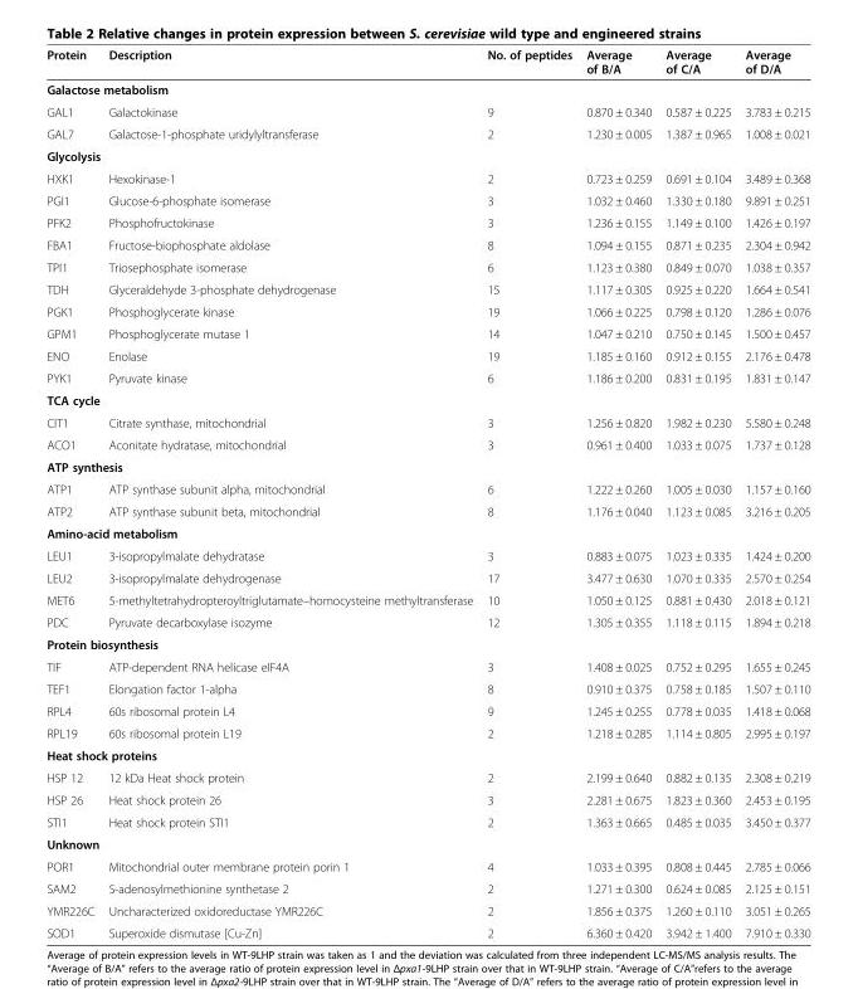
<table><thead><tr><td>Protein</td><td>Description</td><td>No. of peptides</td><td>Average of B/A</td><td>Average of C/A</td><td>Average of D/A</td></tr></thead><tbody><tr><td colspan="6">Galactose metabolism</td></tr><tr><td>GAL1</td><td>Galactokinase</td><td>9</td><td>0.870 ± 0.340</td><td>0.587 ± 0.225</td><td>3.783 ± 0.215</td></tr><tr><td>GAL7</td><td>Galactose-1-phosphate uridylyltransferase</td><td>2</td><td>1.230 ± 0.005</td><td>1.387 ± 0.965</td><td>1.008 ± 0.021</td></tr><tr><td colspan="6">Glycolysis</td></tr><tr><td>HXK1</td><td>Hexokinase-1</td><td>2</td><td>0.723 ± 0.259</td><td>0.691 ± 0.104</td><td>3.489 ± 0.368</td></tr><tr><td>PGI1</td><td>Glucose-6-phosphate isomerase</td><td>3</td><td>1.032 ± 0.460</td><td>1.330 ± 0.180</td><td>9.891 ± 0.251</td></tr><tr><td>PFK2</td><td>Phosphofructokinase</td><td>3</td><td>1.236 ± 0.155</td><td>1.149 ± 0.100</td><td>1.426 ± 0.197</td></tr><tr><td>FBA1</td><td>Fructose-biophosphate aldolase</td><td>8</td><td>1.094 ± 0.155</td><td>0.871 ± 0.235</td><td>2.304 ± 0.942</td></tr><tr><td>TPI1</td><td>Triosephosphate isomerase</td><td>6</td><td>1.123 ± 0.380</td><td>0.849 ± 0.070</td><td>1.038 ± 0.357</td></tr><tr><td>TDH</td><td>Glyceraldehyde 3-phosphate dehydrogenase</td><td>15</td><td>1.117 ± 0.305</td><td>0.925 ± 0.220</td><td>1.664 ± 0.541</td></tr><tr><td>PGK1</td><td>Phosphoglycerate kinase</td><td>19</td><td>1.066 ± 0.225</td><td>0.798 ± 0.120</td><td>1.286 ± 0.076</td></tr><tr><td>GPM1</td><td>Phosphoglycerate mutase 1</td><td>14</td><td>1.047 ± 0.210</td><td>0.750 ± 0.145</td><td>1.500 ± 0.457</td></tr><tr><td>ENO</td><td>Enolase</td><td>19</td><td>1.185 ± 0.160</td><td>0.912 ± 0.155</td><td>2.176 ± 0.478</td></tr><tr><td>PYK1</td><td>Pyruvate kinase</td><td>6</td><td>1.186 ± 0.200</td><td>0.831 ± 0.195</td><td>1.831 ± 0.147</td></tr><tr><td colspan="6">TCA cycle</td></tr><tr><td>CIT1</td><td>Citrate synthase, mitochondrial</td><td>3</td><td>1.256 ± 0.820</td><td>1.982 ± 0.230</td><td>5.580 ± 0.248</td></tr><tr><td>ACO1</td><td>Aconitate hydratase, mitochondrial</td><td>3</td><td>0.961 ± 0.400</td><td>1.033 ± 0.075</td><td>1.737 ± 0.128</td></tr><tr><td colspan="6">ATP synthesis</td></tr><tr><td>ATP1</td><td>ATP synthase subunit alpha, mitochondrial</td><td>6</td><td>1.222 ± 0.260</td><td>1.005 ± 0.030</td><td>1.157 ± 0.160</td></tr><tr><td>ATP2</td><td>ATP synthase subunit beta, mitochondrial</td><td>8</td><td>1.176 ± 0.040</td><td>1.123 ± 0.085</td><td>3.216 ± 0.205</td></tr><tr><td colspan="6">Amino-acid metabolism</td></tr><tr><td>LEU1</td><td>3-isopropylmalate dehydratase</td><td>3</td><td>0.883 ± 0.075</td><td>1.023 ± 0.335</td><td>1.424 ± 0.200</td></tr><tr><td>LEU2</td><td>3-isopropylmalate dehydrogenase</td><td>17</td><td>3.477 ± 0.630</td><td>1.070 ± 0.335</td><td>2.570 ± 0.254</td></tr><tr><td>MET6</td><td>5-methyltetrahydropteroyltriglutamate–homocysteine methyltransferase</td><td>10</td><td>1.050 ± 0.125</td><td>0.881 ± 0.430</td><td>2.018 ± 0.121</td></tr><tr><td>PDC</td><td>Pyruvate decarboxylase isozyme</td><td>12</td><td>1.305 ± 0.355</td><td>1.118 ± 0.115</td><td>1.894 ± 0.218</td></tr><tr><td colspan="6">Protein biosynthesis</td></tr><tr><td>TIF</td><td>ATP-dependent RNA helicase eIF4A</td><td>3</td><td>1.408 ± 0.025</td><td>0.752 ± 0.295</td><td>1.655 ± 0.245</td></tr><tr><td>TEF1</td><td>Elongation factor 1-alpha</td><td>8</td><td>0.910 ± 0.375</td><td>0.758 ± 0.185</td><td>1.507 ± 0.110</td></tr><tr><td>RPL4</td><td>60s ribosomal protein L4</td><td>9</td><td>1.245 ± 0.255</td><td>0.778 ± 0.035</td><td>1.418 ± 0.068</td></tr><tr><td>RPL19</td><td>60s ribosomal protein L19</td><td>2</td><td>1.218 ± 0.285</td><td>1.114 ± 0.805</td><td>2.995 ± 0.197</td></tr><tr><td colspan="6">Heat shock proteins</td></tr><tr><td>HSP 12</td><td>12 kDa Heat shock protein</td><td>2</td><td>2.199 ± 0.640</td><td>0.882 ± 0.135</td><td>2.308 ± 0.219</td></tr><tr><td>HSP 26</td><td>Heat shock protein 26</td><td>3</td><td>2.281 ± 0.675</td><td>1.823 ± 0.360</td><td>2.453 ± 0.195</td></tr><tr><td>STI1</td><td>Heat shock protein STI1</td><td>2</td><td>1.363 ± 0.665</td><td>0.485 ± 0.035</td><td>3.450 ± 0.377</td></tr><tr><td colspan="6">Unknown</td></tr><tr><td>POR1</td><td>Mitochondrial outer membrane protein porin 1</td><td>4</td><td>1.033 ± 0.395</td><td>0.808 ± 0.445</td><td>2.785 ± 0.066</td></tr><tr><td>SAM2</td><td>S-adenosylmethionine synthetase 2</td><td>2</td><td>1.271 ± 0.300</td><td>0.624 ± 0.085</td><td>2.125 ± 0.151</td></tr><tr><td>YMR226C</td><td>Uncharacterized oxidoreductase YMR226C</td><td>2</td><td>1.856 ± 0.375</td><td>1.260 ± 0.110</td><td>3.051 ± 0.265</td></tr><tr><td>SOD1</td><td>Superoxide dismutase [Cu-Zn]</td><td>2</td><td>6.360 ± 0.420</td><td>3.942 ± 1.400</td><td>7.910 ± 0.330</td></tr></tbody></table>